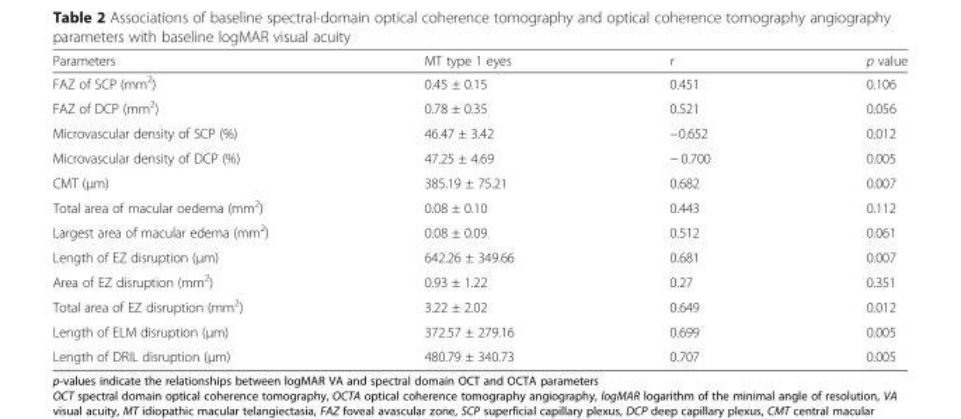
<table><thead><tr><td>Parameters</td><td>MT type 1 eyes</td><td>r</td><td>p value</td></tr></thead><tbody><tr><td>FAZ of SCP (mm<sup>2</sup>)</td><td>0.45 ± 0.15</td><td>0.451</td><td>0.106</td></tr><tr><td>FAZ of DCP (mm<sup>2</sup>)</td><td>0.78 ± 0.35</td><td>0.521</td><td>0.056</td></tr><tr><td>Microvascular density of SCP (%)</td><td>46.47 ± 3.42</td><td>−0.652</td><td>0.012</td></tr><tr><td>Microvascular density of DCP (%)</td><td>47.25 ± 4.69</td><td>− 0.700</td><td>0.005</td></tr><tr><td>CMT (μm)</td><td>385.19 ± 75.21</td><td>0.682</td><td>0.007</td></tr><tr><td>Total area of macular oedema (mm<sup>2</sup>)</td><td>0.08 ± 0.10</td><td>0.443</td><td>0.112</td></tr><tr><td>Largest area of macular edema (mm<sup>2</sup>)</td><td>0.08 ± 0.09</td><td>0.512</td><td>0.061</td></tr><tr><td>Length of EZ disruption (μm)</td><td>642.26 ± 349.66</td><td>0.681</td><td>0.007</td></tr><tr><td>Area of EZ disruption (mm<sup>2</sup>)</td><td>0.93 ± 1.22</td><td>0.27</td><td>0.351</td></tr><tr><td>Total area of EZ disruption (mm<sup>2</sup>)</td><td>3.22 ± 2.02</td><td>0.649</td><td>0.012</td></tr><tr><td>Length of ELM disruption (μm)</td><td>372.57 ± 279.16</td><td>0.699</td><td>0.005</td></tr><tr><td>Length of DRIL disruption (μm)</td><td>480.79 ± 340.73</td><td>0.707</td><td>0.005</td></tr></tbody></table>